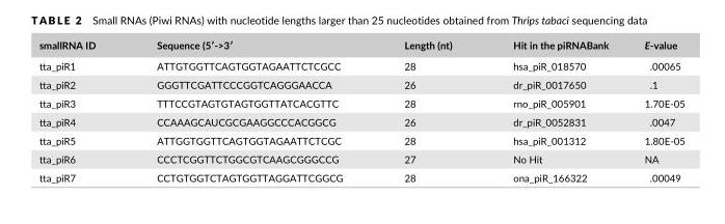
<table><thead><tr><td>smallRNA ID</td><td>Sequence (5′- &gt;3′</td><td>Length (nt)</td><td>Hit in the piRNABank</td><td>E- value</td></tr></thead><tbody><tr><td>tta_piR1</td><td>ATTGTGGTTCAGTGGTAGAATTCTCGCC</td><td>28</td><td>hsa_piR_018570</td><td>.00065</td></tr><tr><td>tta_piR2</td><td>GGGTTCGATTCCCGGTCAGGGAACCA</td><td>26</td><td>dr_piR_0017650</td><td>.1</td></tr><tr><td>tta_piR3</td><td>TTTCCGTAGTGTAGTGGTTATCACGTTC</td><td>28</td><td>rno_piR_005901</td><td>1.70E- 05</td></tr><tr><td>tta_piR4</td><td>CCAAAGCAUCGCGAAGGCCCACGGCG</td><td>26</td><td>dr_piR_0052831</td><td>.0047</td></tr><tr><td>tta_piR5</td><td>ATTGGTGGTTCAGTGGTAGAATTCTCGC</td><td>28</td><td>hsa_piR_001312</td><td>1.80E- 05</td></tr><tr><td>tta_piR6</td><td>CCCTCGGTTCTGGCGTCAAGCGGGCCG</td><td>27</td><td>No Hit</td><td>NA</td></tr><tr><td>tta_piR7</td><td>CCTGTGGTCTAGTGGTTAGGATTCGGCG</td><td>28</td><td>ona_piR_166322</td><td>.00049</td></tr></tbody></table>